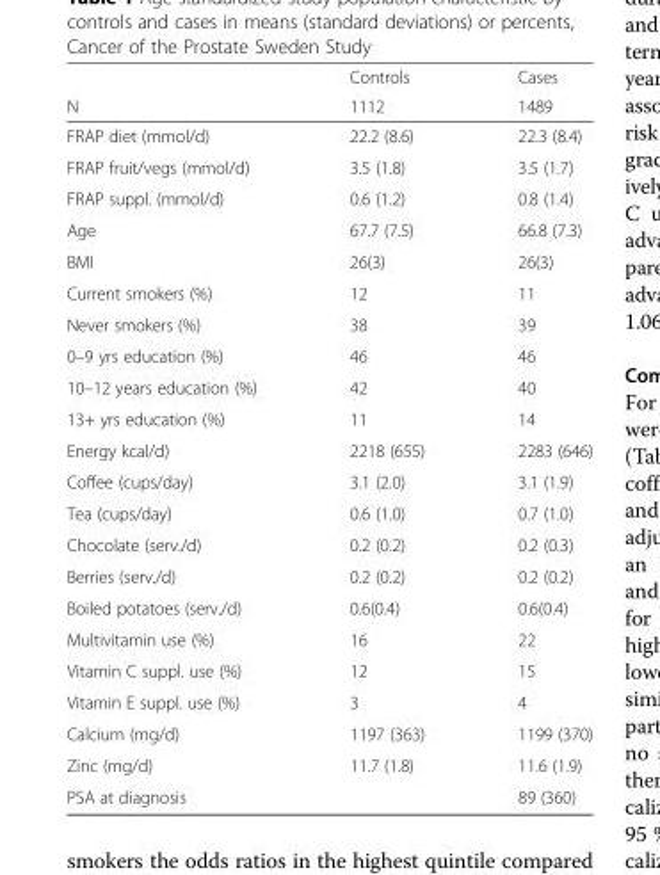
<table><thead><tr><td rowspan="2">N</td><td rowspan="2">Controls 1112</td><td rowspan="2">Cases 1489</td></tr><tr></tr></thead><tbody><tr><td>FRAP diet (mmol/d)</td><td>22.2 (8.6)</td><td>22.3 (8.4)</td></tr><tr><td>FRAP fruit/vegs (mmol/d)</td><td>3.5 (1.8)</td><td>3.5 (1.7)</td></tr><tr><td>FRAP suppl. (mmol/d)</td><td>0.6 (1.2)</td><td>0.8 (1.4)</td></tr><tr><td>Age</td><td>67.7 (7.5)</td><td>66.8 (7.3)</td></tr><tr><td>BMI</td><td>26(3)</td><td>26(3)</td></tr><tr><td>Current smokers (%)</td><td>12</td><td>11</td></tr><tr><td>Never smokers (%)</td><td>38</td><td>39</td></tr><tr><td>0–9 yrs education (%)</td><td>46</td><td>46</td></tr><tr><td>10–12 years education (%)</td><td>42</td><td>40</td></tr><tr><td>13+ yrs education (%)</td><td>11</td><td>14</td></tr><tr><td>Energy kcal/d)</td><td>2218 (655)</td><td>2283 (646)</td></tr><tr><td>Coffee (cups/day)</td><td>3.1 (2.0)</td><td>3.1 (1.9)</td></tr><tr><td>Tea (cups/day)</td><td>0.6 (1.0)</td><td>0.7 (1.0)</td></tr><tr><td>Chocolate (serv./d)</td><td>0.2 (0.2)</td><td>0.2 (0.3)</td></tr><tr><td>Berries (serv./d)</td><td>0.2 (0.2)</td><td>0.2 (0.2)</td></tr><tr><td>Boiled potatoes (serv./d)</td><td>0.6(0.4)</td><td>0.6(0.4)</td></tr><tr><td>Multivitamin use (%)</td><td>16</td><td>22</td></tr><tr><td>Vitamin C suppl. use (%)</td><td>12</td><td>15</td></tr><tr><td>Vitamin E suppl. use (%)</td><td>3</td><td>4</td></tr><tr><td>Calcium (mg/d)</td><td>1197 (363)</td><td>1199 (370)</td></tr><tr><td>Zinc (mg/d)</td><td>11.7 (1.8)</td><td>11.6 (1.9)</td></tr><tr><td>PSA at diagnosis</td><td></td><td>89 (360)</td></tr></tbody></table>